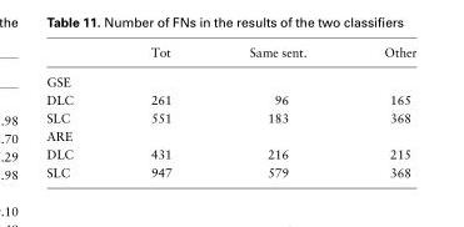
<table><thead><tr><td></td><td>Tot</td><td>Same sent.</td><td>Other</td></tr></thead><tbody><tr><td colspan="4">GSE</td></tr><tr><td>DLC</td><td>261</td><td>96</td><td>165</td></tr><tr><td>SLC</td><td>551</td><td>183</td><td>368</td></tr><tr><td colspan="4">ARE</td></tr><tr><td>DLC</td><td>431</td><td>216</td><td>215</td></tr><tr><td>SLC</td><td>947</td><td>579</td><td>368</td></tr></tbody></table>